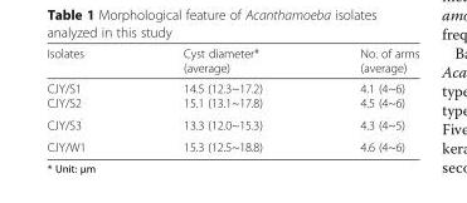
<table><thead><tr><td>Isolates</td><td>Cyst diameter* (average)</td><td>No. of arms (average)</td></tr></thead><tbody><tr><td>CJY/S1 CJY/S2</td><td>14.5 (12.3~17.2) 15.1 (13.1~17.8)</td><td>4.1 (4~6) 4.5 (4~6)</td></tr><tr><td>CJY/S3</td><td>13.3 (12.0~15.3)</td><td>4.3 (4~5)</td></tr><tr><td>CJY/W1</td><td>15.3 (12.5~18.8)</td><td>4.6 (4~6)</td></tr></tbody></table>